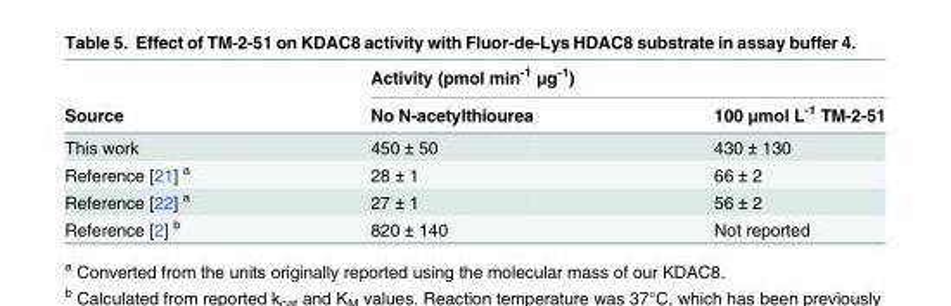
<table><thead><tr><td rowspan="2">Source</td><td colspan="2">Activity (pmol min<sup>-1</sup> μg<sup>-1</sup>)</td></tr><tr><td>No N-acetylthiourea</td><td>100 μmol L<sup>-1</sup> TM-2-51</td></tr></thead><tbody><tr><td>This work</td><td>450 ± 50</td><td>430 ± 130</td></tr><tr><td>Reference [21] <sup>a</sup></td><td>28 ± 1</td><td>66 ± 2</td></tr><tr><td>Reference [22] <sup>a</sup></td><td>27 ± 1</td><td>56 ± 2</td></tr><tr><td>Reference [2] <sup>b</sup></td><td>820 ± 140</td><td>Not reported</td></tr></tbody></table>